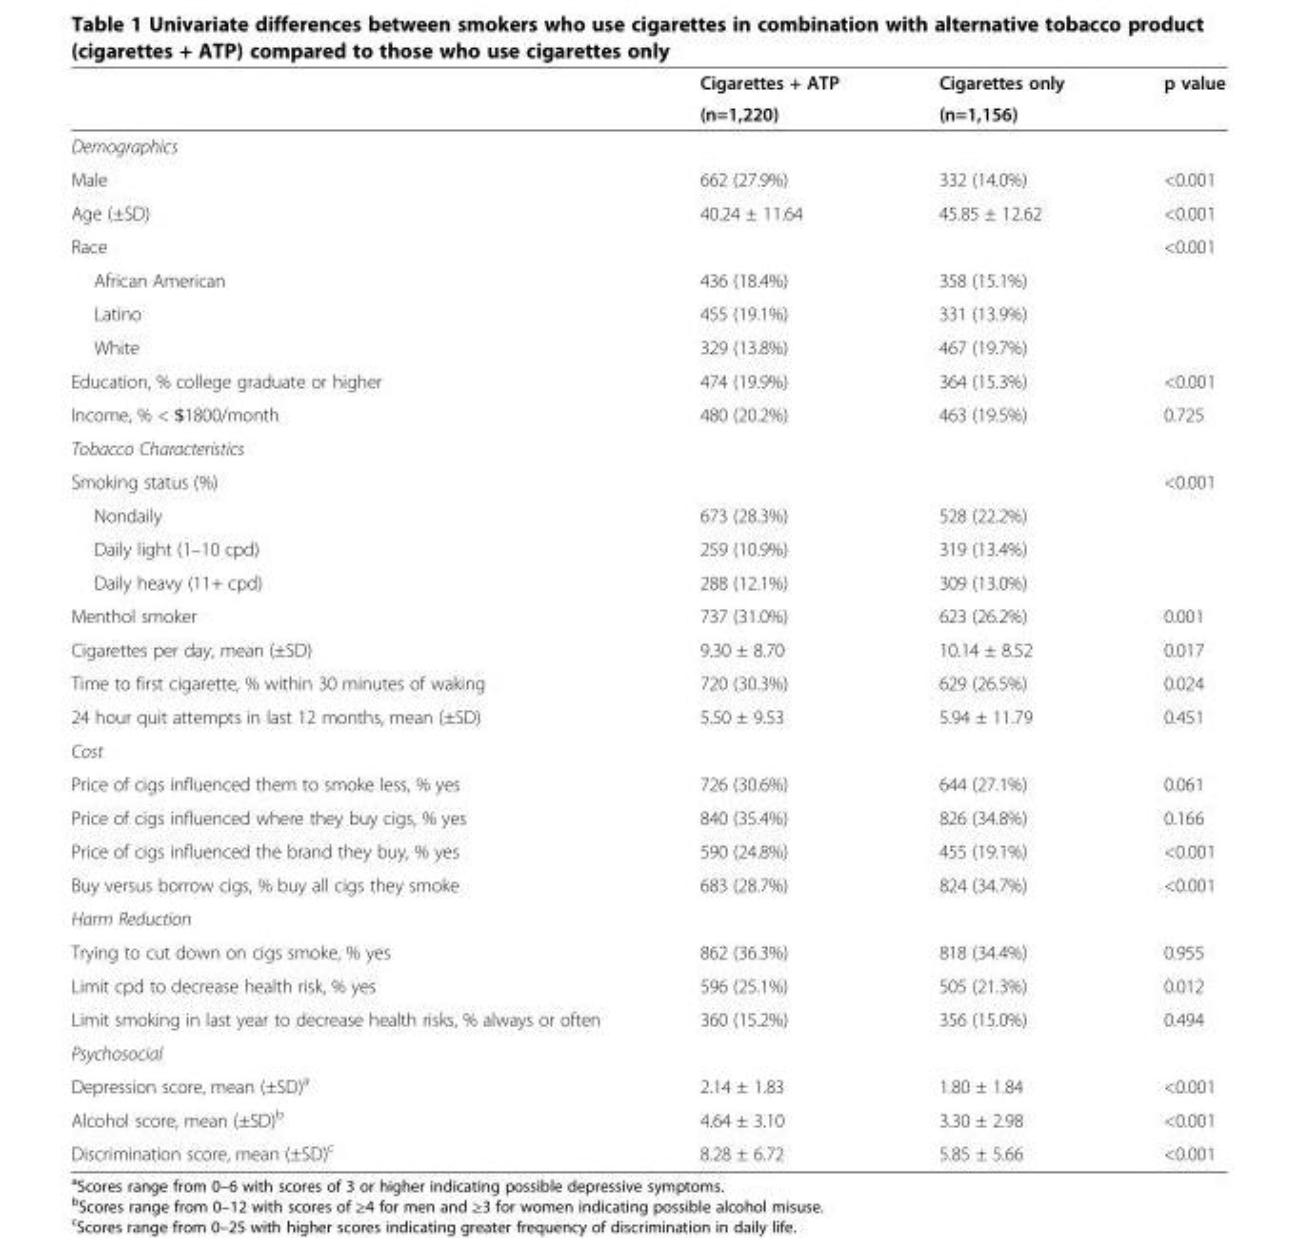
<table><thead><tr><td rowspan="2"></td><td rowspan="2">Cigarettes + ATP (n=1,220)</td><td rowspan="2">Cigarettes only (n=1,156)</td><td rowspan="2">p value</td></tr><tr></tr></thead><tbody><tr><td colspan="4">Demographics</td></tr><tr><td>Male</td><td>662 (27.9%)</td><td>332 (14.0%)</td><td>&lt;0.001</td></tr><tr><td>Age (±SD)</td><td>40.24 ± 11.64</td><td>45.85 ± 12.62</td><td>&lt;0.001</td></tr><tr><td colspan="3">Race</td><td rowspan="4">&lt;0.001</td></tr><tr><td>African American</td><td>436 (18.4%)</td><td>358 (15.1%)</td></tr><tr><td>Latino</td><td>455 (19.1%)</td><td>331 (13.9%)</td></tr><tr><td>White</td><td>329 (13.8%)</td><td>467 (19.7%)</td></tr><tr><td>Education, % college graduate or higher</td><td>474 (19.9%)</td><td>364 (15.3%)</td><td>&lt;0.001</td></tr><tr><td>Income, % &lt; $1800/month</td><td>480 (20.2%)</td><td>463 (19.5%)</td><td>0.725</td></tr><tr><td colspan="4">Tobacco Characteristics</td></tr><tr><td colspan="3">Smoking status (%)</td><td rowspan="4">&lt;0.001</td></tr><tr><td>Nondaily</td><td>673 (28.3%)</td><td>528 (22.2%)</td></tr><tr><td>Daily light (1–10 cpd)</td><td>259 (10.9%)</td><td>319 (13.4%)</td></tr><tr><td>Daily heavy (11+ cpd)</td><td>288 (12.1%)</td><td>309 (13.0%)</td></tr><tr><td>Menthol smoker</td><td>737 (31.0%)</td><td>623 (26.2%)</td><td>0.001</td></tr><tr><td>Cigarettes per day, mean (±SD)</td><td>9.30 ± 8.70</td><td>10.14 ± 8.52</td><td>0.017</td></tr><tr><td>Time to first cigarette, % within 30 minutes of waking</td><td>720 (30.3%)</td><td>629 (26.5%)</td><td>0.024</td></tr><tr><td>24 hour quit attempts in last 12 months, mean (±SD)</td><td>5.50 ± 9.53</td><td>5.94 ± 11.79</td><td>0.451</td></tr><tr><td colspan="4">Cost</td></tr><tr><td>Price of cigs influenced them to smoke less, % yes</td><td>726 (30.6%)</td><td>644 (27.1%)</td><td>0.061</td></tr><tr><td>Price of cigs influenced where they buy cigs, % yes</td><td>840 (35.4%)</td><td>826 (34.8%)</td><td>0.166</td></tr><tr><td>Price of cigs influenced the brand they buy, % yes</td><td>590 (24.8%)</td><td>455 (19.1%)</td><td>&lt;0.001</td></tr><tr><td>Buy versus borrow cigs, % buy all cigs they smoke</td><td>683 (28.7%)</td><td>824 (34.7%)</td><td>&lt;0.001</td></tr><tr><td colspan="4">Harm Reduction</td></tr><tr><td>Trying to cut down on cigs smoke, % yes</td><td>862 (36.3%)</td><td>818 (34.4%)</td><td>0.955</td></tr><tr><td>Limit cpd to decrease health risk, % yes</td><td>596 (25.1%)</td><td>505 (21.3%)</td><td>0.012</td></tr><tr><td>Limit smoking in last year to decrease health risks, % always or often</td><td>360 (15.2%)</td><td>356 (15.0%)</td><td>0.494</td></tr><tr><td colspan="4">Psychosocial</td></tr><tr><td>Depression score, mean (±SD)<sup>a</sup></td><td>2.14 ± 1.83</td><td>1.80 ± 1.84</td><td>&lt;0.001</td></tr><tr><td>Alcohol score, mean (±SD)<sup>b</sup></td><td>4.64 ± 3.10</td><td>3.30 ± 2.98</td><td>&lt;0.001</td></tr><tr><td>Discrimination score, mean (±SD)<sup>c</sup></td><td>8.28 ± 6.72</td><td>5.85 ± 5.66</td><td>&lt;0.001</td></tr></tbody></table>